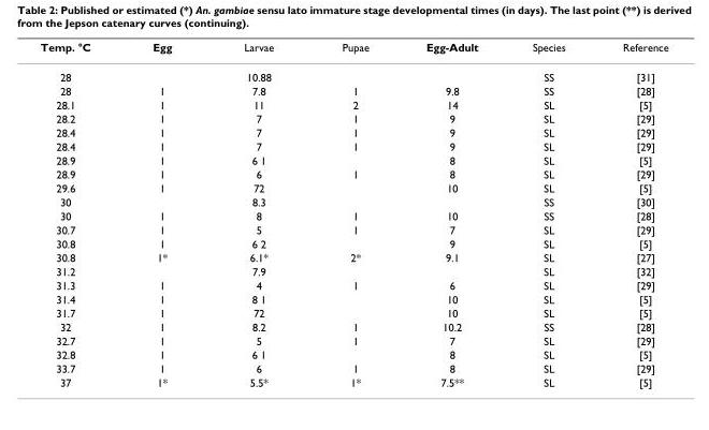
<table><thead><tr><td>Temp. °C</td><td>Egg</td><td>Larvae</td><td>Pupae</td><td>Egg-Adult</td><td>Species</td><td>Reference</td></tr></thead><tbody><tr><td>28</td><td></td><td>10.88</td><td></td><td></td><td>SS</td><td>[31]</td></tr><tr><td>28</td><td>1</td><td>7.8</td><td>1</td><td>9.8</td><td>SS</td><td>[28]</td></tr><tr><td>28.1</td><td>1</td><td>11</td><td>2</td><td>14</td><td>SL</td><td>[5]</td></tr><tr><td>28.2</td><td>1</td><td>7</td><td>1</td><td>9</td><td>SL</td><td>[29]</td></tr><tr><td>28.4</td><td>1</td><td>7</td><td>1</td><td>9</td><td>SL</td><td>[29]</td></tr><tr><td>28.4</td><td>1</td><td>7</td><td>1</td><td>9</td><td>SL</td><td>[29]</td></tr><tr><td>28.9</td><td>1</td><td>6 1</td><td></td><td>8</td><td>SL</td><td>[5]</td></tr><tr><td>28.9</td><td>1</td><td>6</td><td>1</td><td>8</td><td>SL</td><td>[29]</td></tr><tr><td>29.6</td><td>1</td><td>72</td><td></td><td>10</td><td>SL</td><td>[5]</td></tr><tr><td>30</td><td></td><td>8.3</td><td></td><td></td><td>SS</td><td>[30]</td></tr><tr><td>30</td><td>1</td><td>8</td><td>1</td><td>10</td><td>SS</td><td>[28]</td></tr><tr><td>30.7</td><td>1</td><td>5</td><td>1</td><td>7</td><td>SL</td><td>[29]</td></tr><tr><td>30.8</td><td>1</td><td>6 2</td><td></td><td>9</td><td>SL</td><td>[5]</td></tr><tr><td>30.8</td><td>1*</td><td>6.1*</td><td>2*</td><td>9.1</td><td>SL</td><td>[27]</td></tr><tr><td>31.2</td><td></td><td>7.9</td><td></td><td></td><td>SL</td><td>[32]</td></tr><tr><td>31.3</td><td>1</td><td>4</td><td>1</td><td>6</td><td>SL</td><td>[29]</td></tr><tr><td>31.4</td><td>1</td><td>8 1</td><td></td><td>10</td><td>SL</td><td>[5]</td></tr><tr><td>31.7</td><td>1</td><td>72</td><td></td><td>10</td><td>SL</td><td>[5]</td></tr><tr><td>32</td><td>1</td><td>8.2</td><td>1</td><td>10.2</td><td>SS</td><td>[28]</td></tr><tr><td>32.7</td><td>1</td><td>5</td><td>1</td><td>7</td><td>SL</td><td>[29]</td></tr><tr><td>32.8</td><td>1</td><td>6 1</td><td></td><td>8</td><td>SL</td><td>[5]</td></tr><tr><td>33.7</td><td>1</td><td>6</td><td>1</td><td>8</td><td>SL</td><td>[29]</td></tr><tr><td>37</td><td>1*</td><td>5.5*</td><td>1*</td><td>7.5**</td><td>SL</td><td>[5]</td></tr></tbody></table>